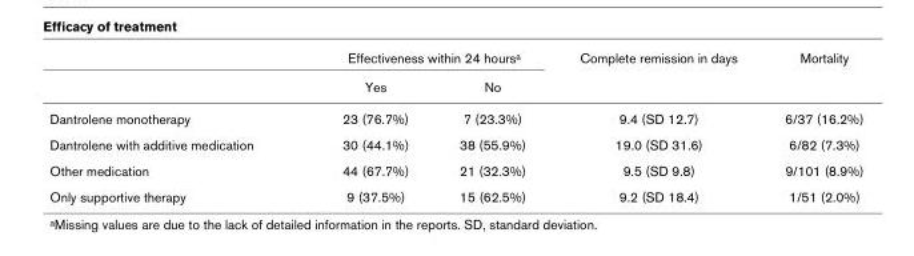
<table><thead><tr><td rowspan="2"></td><td colspan="2">Effectiveness within 24 hours<sup>a</sup></td><td rowspan="2">Complete remission in days</td><td rowspan="2">Mortality</td></tr><tr><td>Yes</td><td>No</td></tr></thead><tbody><tr><td>Dantrolene monotherapy</td><td>23 (76.7%)</td><td>7 (23.3%)</td><td>9.4 (SD 12.7)</td><td>6/37 (16.2%)</td></tr><tr><td>Dantrolene with additive medication</td><td>30 (44.1%)</td><td>38 (55.9%)</td><td>19.0 (SD 31.6)</td><td>6/82 (7.3%)</td></tr><tr><td>Other medication</td><td>44 (67.7%)</td><td>21 (32.3%)</td><td>9.5 (SD 9.8)</td><td>9/101 (8.9%)</td></tr><tr><td>Only supportive therapy</td><td>9 (37.5%)</td><td>15 (62.5%)</td><td>9.2 (SD 18.4)</td><td>1/51 (2.0%)</td></tr></tbody></table>